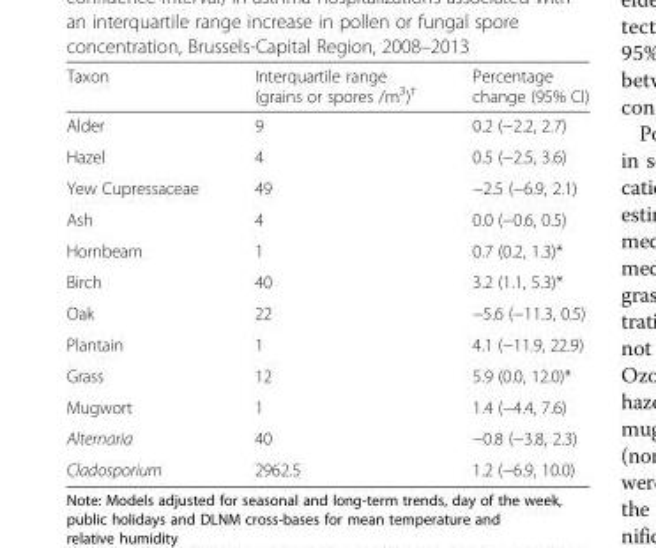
<table><thead><tr><td>Taxon</td><td>Interquartile range (grains or spores /m<sup>3</sup>)<sup>†</sup></td><td>Percentage change (95% CI)</td></tr></thead><tbody><tr><td>Alder</td><td>9</td><td>0.2 (−2.2, 2.7)</td></tr><tr><td>Hazel</td><td>4</td><td>0.5 (−2.5, 3.6)</td></tr><tr><td>Yew Cupressaceae</td><td>49</td><td>−2.5 (−6.9, 2.1)</td></tr><tr><td>Ash</td><td>4</td><td>0.0 (−0.6, 0.5)</td></tr><tr><td>Hornbeam</td><td>1</td><td>0.7 (0.2, 1.3)*</td></tr><tr><td>Birch</td><td>40</td><td>3.2 (1.1, 5.3)*</td></tr><tr><td>Oak</td><td>22</td><td>−5.6 (−11.3, 0.5)</td></tr><tr><td>Plantain</td><td>1</td><td>4.1 (−11.9, 22.9)</td></tr><tr><td>Grass</td><td>12</td><td>5.9 (0.0, 12.0)*</td></tr><tr><td>Mugwort</td><td>1</td><td>1.4 (−4.4, 7.6)</td></tr><tr><td>Alternaria</td><td>40</td><td>−0.8 (−3.8, 2.3)</td></tr><tr><td>Cladosporium</td><td>2962.5</td><td>1.2 (−6.9, 10.0)</td></tr></tbody></table>